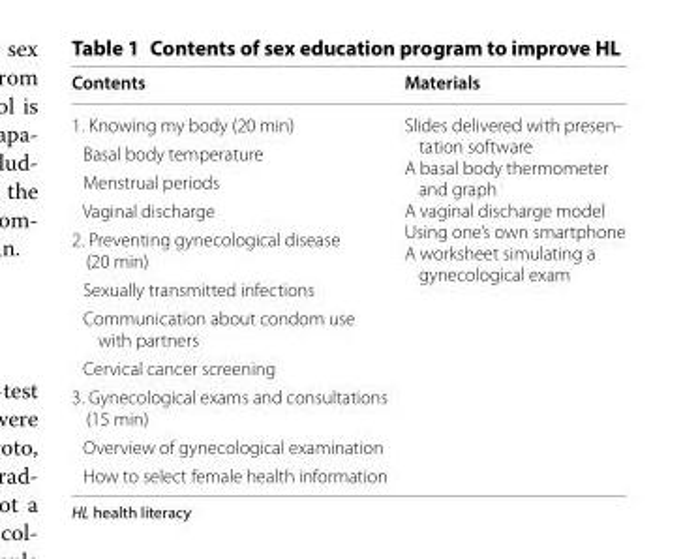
<table><thead><tr><td>Contents</td><td>Materials</td></tr></thead><tbody><tr><td>1. Knowing my body (20 min)</td><td rowspan="11">Slides delivered with presen‑ tation software A basal body thermometer and graph A vaginal discharge model Using one’s own smartphone A worksheet simulating a gynecological exam</td></tr><tr><td>Basal body temperature</td></tr><tr><td>Menstrual periods</td></tr><tr><td>Vaginal discharge</td></tr><tr><td>2. Preventing gynecological disease (20 min)</td></tr><tr><td>Sexually transmitted infections</td></tr><tr><td>Communication about condom use with partners</td></tr><tr><td>Cervical cancer screening</td></tr><tr><td>3. Gynecological exams and consultations (15 min)</td></tr><tr><td>Overview of gynecological examination</td></tr><tr><td>How to select female health information</td></tr></tbody></table>